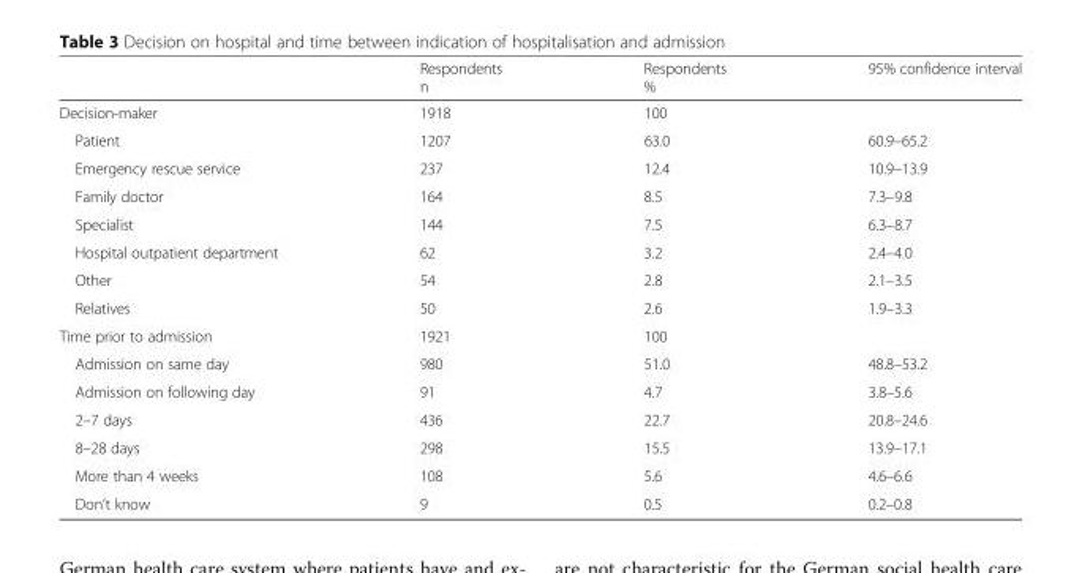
<table><thead><tr><td></td><td>Respondents n</td><td>Respondents %</td><td>95% confidence interval</td></tr></thead><tbody><tr><td>Decision-maker</td><td>1918</td><td>100</td><td></td></tr><tr><td>Patient</td><td>1207</td><td>63.0</td><td>60.9–65.2</td></tr><tr><td>Emergency rescue service</td><td>237</td><td>12.4</td><td>10.9–13.9</td></tr><tr><td>Family doctor</td><td>164</td><td>8.5</td><td>7.3–9.8</td></tr><tr><td>Specialist</td><td>144</td><td>7.5</td><td>6.3–8.7</td></tr><tr><td>Hospital outpatient department</td><td>62</td><td>3.2</td><td>2.4–4.0</td></tr><tr><td>Other</td><td>54</td><td>2.8</td><td>2.1–3.5</td></tr><tr><td>Relatives</td><td>50</td><td>2.6</td><td>1.9–3.3</td></tr><tr><td>Time prior to admission</td><td>1921</td><td>100</td><td></td></tr><tr><td>Admission on same day</td><td>980</td><td>51.0</td><td>48.8–53.2</td></tr><tr><td>Admission on following day</td><td>91</td><td>4.7</td><td>3.8–5.6</td></tr><tr><td>2–7 days</td><td>436</td><td>22.7</td><td>20.8–24.6</td></tr><tr><td>8–28 days</td><td>298</td><td>15.5</td><td>13.9–17.1</td></tr><tr><td>More than 4 weeks</td><td>108</td><td>5.6</td><td>4.6–6.6</td></tr><tr><td>Don’t know</td><td>9</td><td>0.5</td><td>0.2–0.8</td></tr></tbody></table>